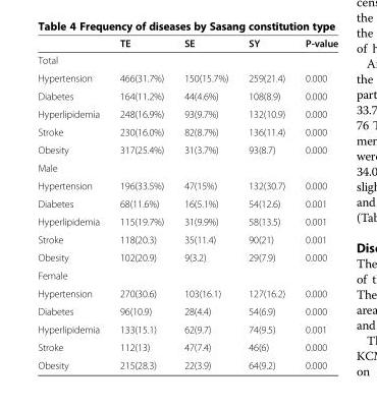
<table><thead><tr><td></td><td>TE</td><td>SE</td><td>SY</td><td>P-value</td></tr></thead><tbody><tr><td colspan="5">Total</td></tr><tr><td>Hypertension</td><td>466(31.7%)</td><td>150(15.7%)</td><td>259(21.4)</td><td>0.000</td></tr><tr><td>Diabetes</td><td>164(11.2%)</td><td>44(4.6%)</td><td>108(8.9)</td><td>0.000</td></tr><tr><td>Hyperlipidemia</td><td>248(16.9%)</td><td>93(9.7%)</td><td>132(10.9)</td><td>0.000</td></tr><tr><td>Stroke</td><td>230(16.0%)</td><td>82(8.7%)</td><td>136(11.4)</td><td>0.000</td></tr><tr><td>Obesity</td><td>317(25.4%)</td><td>31(3.7%)</td><td>93(8.7)</td><td>0.000</td></tr><tr><td colspan="5">Male</td></tr><tr><td>Hypertension</td><td>196(33.5%)</td><td>47(15%)</td><td>132(30.7)</td><td>0.000</td></tr><tr><td>Diabetes</td><td>68(11.6%)</td><td>16(5.1%)</td><td>54(12.6)</td><td>0.001</td></tr><tr><td>Hyperlipidemia</td><td>115(19.7%)</td><td>31(9.9%)</td><td>58(13.5)</td><td>0.001</td></tr><tr><td>Stroke</td><td>118(20.3)</td><td>35(11.4)</td><td>90(21)</td><td>0.001</td></tr><tr><td>Obesity</td><td>102(20.9)</td><td>9(3.2)</td><td>29(7.9)</td><td>0.000</td></tr><tr><td colspan="5">Female</td></tr><tr><td>Hypertension</td><td>270(30.6)</td><td>103(16.1)</td><td>127(16.2)</td><td>0.000</td></tr><tr><td>Diabetes</td><td>96(10.9)</td><td>28(4.4)</td><td>54(6.9)</td><td>0.000</td></tr><tr><td>Hyperlipidemia</td><td>133(15.1)</td><td>62(9.7)</td><td>74(9.5)</td><td>0.001</td></tr><tr><td>Stroke</td><td>112(13)</td><td>47(7.4)</td><td>46(6)</td><td>0.000</td></tr><tr><td>Obesity</td><td>215(28.3)</td><td>22(3.9)</td><td>64(9.2)</td><td>0.000</td></tr></tbody></table>